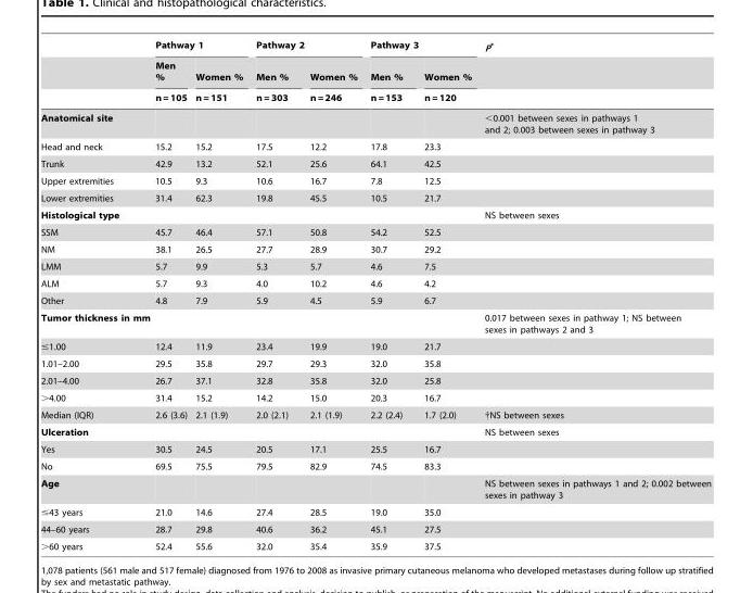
<table><thead><tr><td rowspan="3"></td><td colspan="2">Pathway 1</td><td colspan="2">Pathway 2</td><td colspan="2">Pathway 3</td><td rowspan="3">P*</td></tr><tr><td rowspan="2">Men % n = 105</td><td rowspan="2">Women % n = 151</td><td rowspan="2">Men % n = 303</td><td rowspan="2">Women % n = 246</td><td rowspan="2">Men % n = 153</td><td rowspan="2">Women % n = 120</td></tr><tr></tr></thead><tbody><tr><td>Anatomical site</td><td></td><td></td><td></td><td></td><td></td><td></td><td>&lt;0.001 between sexes in pathways 1 and 2; 0.003 between sexes in pathway 3</td></tr><tr><td>Head and neck</td><td>15.2</td><td>15.2</td><td>17.5</td><td>12.2</td><td>17.8</td><td>23.3</td><td></td></tr><tr><td>Trunk</td><td>42.9</td><td>13.2</td><td>52.1</td><td>25.6</td><td>64.1</td><td>42.5</td><td></td></tr><tr><td>Upper extremities</td><td>10.5</td><td>9.3</td><td>10.6</td><td>16.7</td><td>7.8</td><td>12.5</td><td></td></tr><tr><td>Lower extremities</td><td>31.4</td><td>62.3</td><td>19.8</td><td>45.5</td><td>10.5</td><td>21.7</td><td></td></tr><tr><td>Histological type</td><td></td><td></td><td></td><td></td><td></td><td></td><td>NS between sexes</td></tr><tr><td>SSM</td><td>45.7</td><td>46.4</td><td>57.1</td><td>50.8</td><td>54.2</td><td>52.5</td><td></td></tr><tr><td>NM</td><td>38.1</td><td>26.5</td><td>27.7</td><td>28.9</td><td>30.7</td><td>29.2</td><td></td></tr><tr><td>LMM</td><td>5.7</td><td>9.9</td><td>5.3</td><td>5.7</td><td>4.6</td><td>7.5</td><td></td></tr><tr><td>ALM</td><td>5.7</td><td>9.3</td><td>4.0</td><td>10.2</td><td>4.6</td><td>4.2</td><td></td></tr><tr><td>Other</td><td>4.8</td><td>7.9</td><td>5.9</td><td>4.5</td><td>5.9</td><td>6.7</td><td></td></tr><tr><td>Tumor thickness in mm</td><td></td><td></td><td></td><td></td><td></td><td></td><td>0.017 between sexes in pathway 1; NS between sexes in pathways 2 and 3</td></tr><tr><td>≤1.00</td><td>12.4</td><td>11.9</td><td>23.4</td><td>19.9</td><td>19.0</td><td>21.7</td><td></td></tr><tr><td>1.01–2.00</td><td>29.5</td><td>35.8</td><td>29.7</td><td>29.3</td><td>32.0</td><td>35.8</td><td></td></tr><tr><td>2.01–4.00</td><td>26.7</td><td>37.1</td><td>32.8</td><td>35.8</td><td>32.0</td><td>25.8</td><td></td></tr><tr><td>&gt;4.00</td><td>31.4</td><td>15.2</td><td>14.2</td><td>15.0</td><td>20.3</td><td>16.7</td><td></td></tr><tr><td>Median (IQR)</td><td>2.6 (3.6)</td><td>2.1 (1.9)</td><td>2.0 (2.1)</td><td>2.1 (1.9)</td><td>2.2 (2.4)</td><td>1.7 (2.0)</td><td>†NS between sexes</td></tr><tr><td>Ulceration</td><td></td><td></td><td></td><td></td><td></td><td></td><td>NS between sexes</td></tr><tr><td>Yes</td><td>30.5</td><td>24.5</td><td>20.5</td><td>17.1</td><td>25.5</td><td>16.7</td><td></td></tr><tr><td>No</td><td>69.5</td><td>75.5</td><td>79.5</td><td>82.9</td><td>74.5</td><td>83.3</td><td></td></tr><tr><td>Age</td><td></td><td></td><td></td><td></td><td></td><td></td><td>NS between sexes in pathways 1 and 2; 0.002 between sexes in pathway 3</td></tr><tr><td>≤43 years</td><td>21.0</td><td>14.6</td><td>27.4</td><td>28.5</td><td>19.0</td><td>35.0</td><td></td></tr><tr><td>44–60 years</td><td>28.7</td><td>29.8</td><td>40.6</td><td>36.2</td><td>45.1</td><td>27.5</td><td></td></tr><tr><td>&gt;60 years</td><td>52.4</td><td>55.6</td><td>32.0</td><td>35.4</td><td>35.9</td><td>37.5</td><td></td></tr></tbody></table>